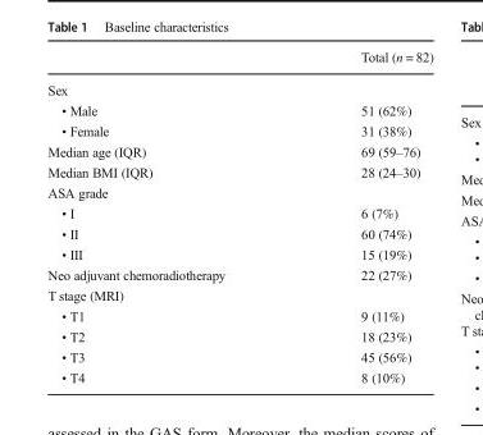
<table><thead><tr><td></td><td>Total (n = 82)</td></tr></thead><tbody><tr><td colspan="2">Sex</td></tr><tr><td>• Male</td><td>51 (62%)</td></tr><tr><td>• Female</td><td>31 (38%)</td></tr><tr><td>Median age (IQR)</td><td>69 (59–76)</td></tr><tr><td>Median BMI (IQR)</td><td>28 (24–30)</td></tr><tr><td colspan="2">ASA grade</td></tr><tr><td>• I</td><td>6 (7%)</td></tr><tr><td>• II</td><td>60 (74%)</td></tr><tr><td>• III</td><td>15 (19%)</td></tr><tr><td>Neo adjuvant chemoradiotherapy</td><td>22 (27%)</td></tr><tr><td colspan="2">T stage (MRI)</td></tr><tr><td>• T1</td><td>9 (11%)</td></tr><tr><td>• T2</td><td>18 (23%)</td></tr><tr><td>• T3</td><td>45 (56%)</td></tr><tr><td>• T4</td><td>8 (10%)</td></tr></tbody></table>